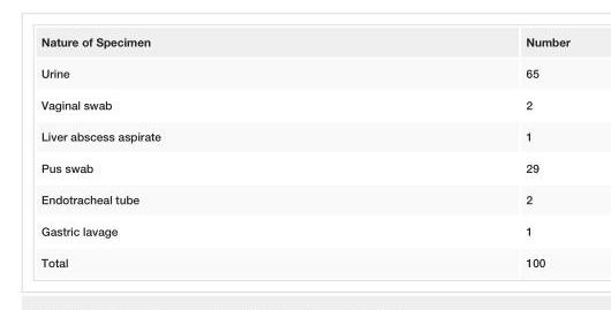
<table><tbody><tr><td>Nature of Specimen</td><td>Number</td></tr><tr><td>Urine</td><td>65</td></tr><tr><td>Vaginal swab</td><td>2</td></tr><tr><td>Liver abscess aspirate</td><td>1</td></tr><tr><td>Pus swab</td><td>29</td></tr><tr><td>Endotracheal tube</td><td>2</td></tr><tr><td>Gastric lavage</td><td>1</td></tr><tr><td>Total</td><td>100</td></tr></tbody></table>